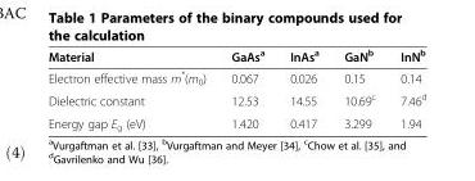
<table><thead><tr><td>Material</td><td>GaAs<sup>a</sup></td><td>InAs<sup>a</sup></td><td>GaN<sup>b</sup></td><td>InN<sup>b</sup></td></tr></thead><tbody><tr><td>Electron effective mass m*(m<sub>0</sub>)</td><td>0.067</td><td>0.026</td><td>0.15</td><td>0.14</td></tr><tr><td>Dielectric constant</td><td>12.53</td><td>14.55</td><td>10.69<sup>c</sup></td><td>7.46<sup>d</sup></td></tr><tr><td>Energy gap E<sub>g</sub> (eV)</td><td>1.420</td><td>0.417</td><td>3.299</td><td>1.94</td></tr></tbody></table>